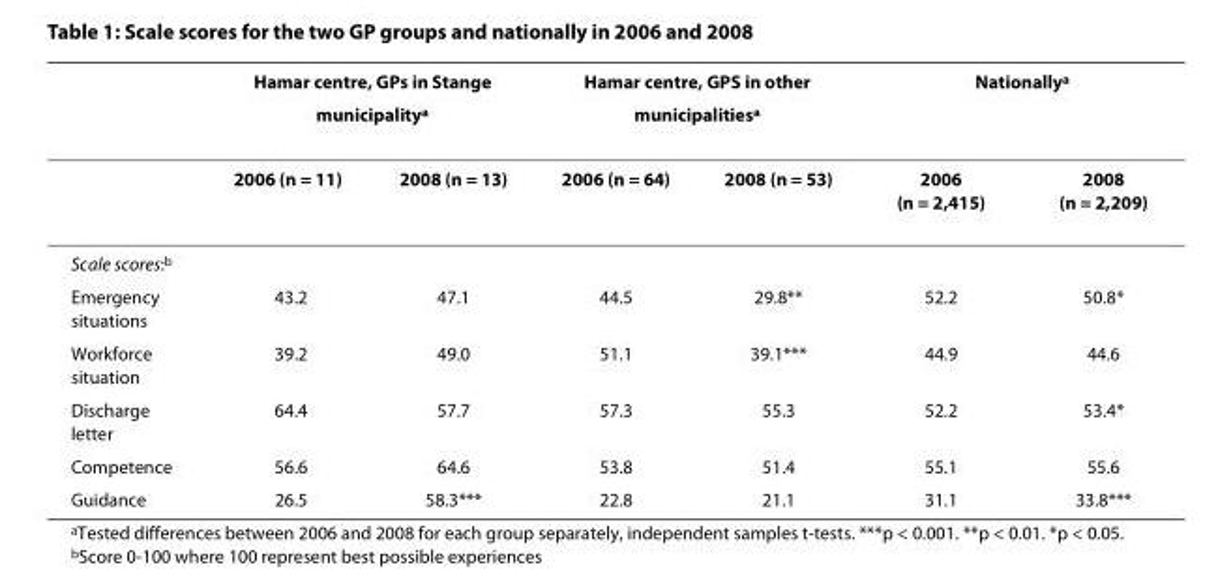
<table><thead><tr><td rowspan="2"></td><td colspan="2">Hamar centre, GPs in Stange municipality<sup>a</sup></td><td colspan="2">Hamar centre, GPS in other municipalities<sup>a</sup></td><td colspan="2">Nationally<sup>a</sup></td></tr><tr><td>2006 (n = 11)</td><td>2008 (n = 13)</td><td>2006 (n = 64)</td><td>2008 (n = 53)</td><td>2006 (n = 2,415)</td><td>2008 (n = 2,209)</td></tr></thead><tbody><tr><td colspan="7">Scale scores:<sup>b</sup></td></tr><tr><td>Emergency situations</td><td>43.2</td><td>47.1</td><td>44.5</td><td>29.8**</td><td>52.2</td><td>50.8*</td></tr><tr><td>Workforce situation</td><td>39.2</td><td>49.0</td><td>51.1</td><td>39.1***</td><td>44.9</td><td>44.6</td></tr><tr><td>Discharge letter</td><td>64.4</td><td>57.7</td><td>57.3</td><td>55.3</td><td>52.2</td><td>53.4*</td></tr><tr><td>Competence</td><td>56.6</td><td>64.6</td><td>53.8</td><td>51.4</td><td>55.1</td><td>55.6</td></tr><tr><td>Guidance</td><td>26.5</td><td>58.3***</td><td>22.8</td><td>21.1</td><td>31.1</td><td>33.8***</td></tr></tbody></table>